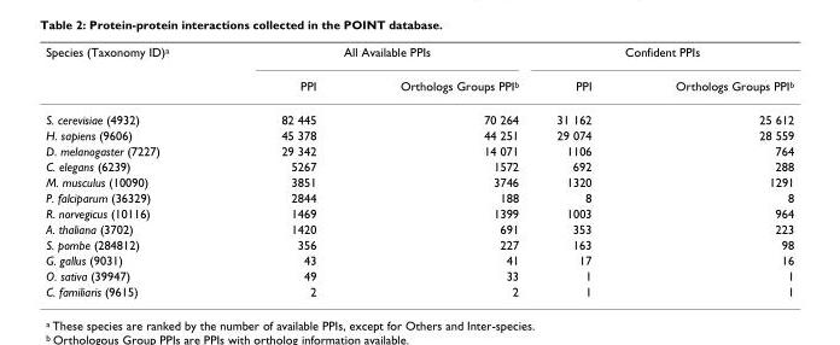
<table><thead><tr><td rowspan="2">Species (Taxonomy ID)<sup>a</sup></td><td colspan="2">All Available PPIs</td><td colspan="2">Confident PPIs</td></tr><tr><td>PPI</td><td>Orthologs Groups PPI<sup>b</sup></td><td>PPI</td><td>Orthologs Groups PPI<sup>b</sup></td></tr></thead><tbody><tr><td>S. cerevisiae (4932)</td><td>82 445</td><td>70 264</td><td>31 162</td><td>25 612</td></tr><tr><td>H. sapiens (9606)</td><td>45 378</td><td>44 251</td><td>29 074</td><td>28 559</td></tr><tr><td>D. melanogaster (7227)</td><td>29 342</td><td>14 071</td><td>1106</td><td>764</td></tr><tr><td>C. elegans (6239)</td><td>5267</td><td>1572</td><td>692</td><td>288</td></tr><tr><td>M. musculus (10090)</td><td>3851</td><td>3746</td><td>1320</td><td>1291</td></tr><tr><td>P. falciparum (36329)</td><td>2844</td><td>188</td><td>8</td><td>8</td></tr><tr><td>R. norvegicus (10116)</td><td>1469</td><td>1399</td><td>1003</td><td>964</td></tr><tr><td>A. thaliana (3702)</td><td>1420</td><td>691</td><td>353</td><td>223</td></tr><tr><td>S. pombe (284812)</td><td>356</td><td>227</td><td>163</td><td>98</td></tr><tr><td>G. gallus (9031)</td><td>43</td><td>41</td><td>17</td><td>16</td></tr><tr><td>O. sativa (39947)</td><td>49</td><td>33</td><td>1</td><td>1</td></tr><tr><td>C. familiaris (9615)</td><td>2</td><td>2</td><td>1</td><td>1</td></tr></tbody></table>